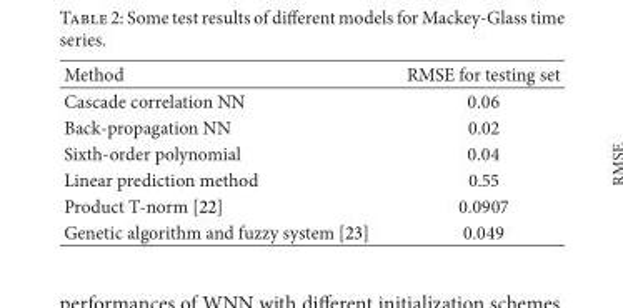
<table><thead><tr><td>Method</td><td>RMSE for testing set</td></tr></thead><tbody><tr><td>Cascade correlation NN</td><td>0.06</td></tr><tr><td>Back-propagation NN</td><td>0.02</td></tr><tr><td>Sixth-order polynomial</td><td>0.04</td></tr><tr><td>Linear prediction method</td><td>0.55</td></tr><tr><td>Product T-norm [22]</td><td>0.0907</td></tr><tr><td>Genetic algorithm and fuzzy system [23]</td><td>0.049</td></tr></tbody></table>